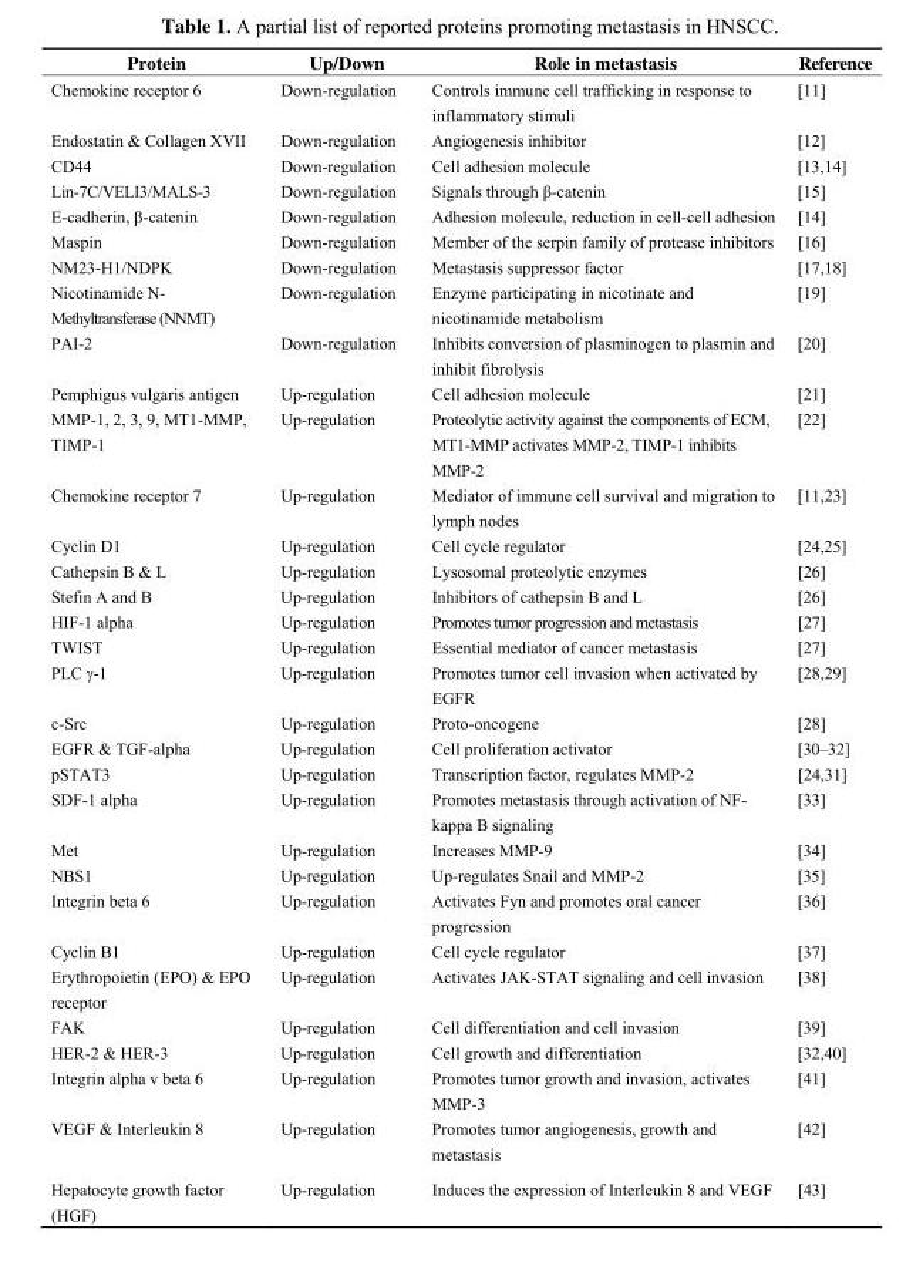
<table><thead><tr><td>Protein</td><td>Up/Down</td><td>Role in metastasis</td><td>Reference</td></tr></thead><tbody><tr><td>Chemokine receptor 6</td><td>Down-regulation</td><td>Controls immune cell trafficking in response to inflammatory stimuli</td><td>[11]</td></tr><tr><td>Endostatin &amp; Collagen XVII</td><td>Down-regulation</td><td>Angiogenesis inhibitor</td><td>[12]</td></tr><tr><td>CD44</td><td>Down-regulation</td><td>Cell adhesion molecule</td><td>[13,14]</td></tr><tr><td>Lin-7C/VELI3/MALS-3</td><td>Down-regulation</td><td>Signals through β-catenin</td><td>[15]</td></tr><tr><td>E-cadherin, β-catenin</td><td>Down-regulation</td><td>Adhesion molecule, reduction in cell-cell adhesion</td><td>[14]</td></tr><tr><td>Maspin</td><td>Down-regulation</td><td>Member of the serpin family of protease inhibitors</td><td>[16]</td></tr><tr><td>NM23-H1/NDPK</td><td>Down-regulation</td><td>Metastasis suppressor factor</td><td>[17,18]</td></tr><tr><td>Nicotinamide N- Methyltransferase (NNMT)</td><td>Down-regulation</td><td>Enzyme participating in nicotinate and nicotinamide metabolism</td><td>[19]</td></tr><tr><td>PAI-2</td><td>Down-regulation</td><td>Inhibits conversion of plasminogen to plasmin and inhibit fibrolysis</td><td>[20]</td></tr><tr><td>Pemphigus vulgaris antigen</td><td>Up-regulation</td><td>Cell adhesion molecule</td><td>[21]</td></tr><tr><td>MMP-1, 2, 3, 9, MT1-MMP, TIMP-1</td><td>Up-regulation</td><td>Proteolytic activity against the components of ECM, MT1-MMP activates MMP-2, TIMP-1 inhibits MMP-2</td><td>[22]</td></tr><tr><td>Chemokine receptor 7</td><td>Up-regulation</td><td>Mediator of immune cell survival and migration to lymph nodes</td><td>[11,23]</td></tr><tr><td>Cyclin D1</td><td>Up-regulation</td><td>Cell cycle regulator</td><td>[24,25]</td></tr><tr><td>Cathepsin B &amp; L</td><td>Up-regulation</td><td>Lysosomal proteolytic enzymes</td><td>[26]</td></tr><tr><td>Stefin A and B</td><td>Up-regulation</td><td>Inhibitors of cathepsin B and L</td><td>[26]</td></tr><tr><td>HIF-1 alpha</td><td>Up-regulation</td><td>Promotes tumor progression and metastasis</td><td>[27]</td></tr><tr><td>TWIST</td><td>Up-regulation</td><td>Essential mediator of cancer metastasis</td><td>[27]</td></tr><tr><td>PLC γ-1</td><td>Up-regulation</td><td>Promotes tumor cell invasion when activated by EGFR</td><td>[28,29]</td></tr><tr><td>c-Src</td><td>Up-regulation</td><td>Proto-oncogene</td><td>[28]</td></tr><tr><td>EGFR &amp; TGF-alpha</td><td>Up-regulation</td><td>Cell proliferation activator</td><td>[30–32]</td></tr><tr><td>pSTAT3</td><td>Up-regulation</td><td>Transcription factor, regulates MMP-2</td><td>[24,31]</td></tr><tr><td>SDF-1 alpha</td><td>Up-regulation</td><td>Promotes metastasis through activation of NF- kappa B signaling</td><td>[33]</td></tr><tr><td>Met</td><td>Up-regulation</td><td>Increases MMP-9</td><td>[34]</td></tr><tr><td>NBS1</td><td>Up-regulation</td><td>Up-regulates Snail and MMP-2</td><td>[35]</td></tr><tr><td>Integrin beta 6</td><td>Up-regulation</td><td>Activates Fyn and promotes oral cancer progression</td><td>[36]</td></tr><tr><td>Cyclin B1</td><td>Up-regulation</td><td>Cell cycle regulator</td><td>[37]</td></tr><tr><td>Erythropoietin (EPO) &amp; EPO receptor</td><td>Up-regulation</td><td>Activates JAK-STAT signaling and cell invasion</td><td>[38]</td></tr><tr><td>FAK</td><td>Up-regulation</td><td>Cell differentiation and cell invasion</td><td>[39]</td></tr><tr><td>HER-2 &amp; HER-3</td><td>Up-regulation</td><td>Cell growth and differentiation</td><td>[32,40]</td></tr><tr><td>Integrin alpha v beta 6</td><td>Up-regulation</td><td>Promotes tumor growth and invasion, activates MMP-3</td><td>[41]</td></tr><tr><td>VEGF &amp; Interleukin 8</td><td>Up-regulation</td><td>Promotes tumor angiogenesis, growth and metastasis</td><td>[42]</td></tr><tr><td>Hepatocyte growth factor (HGF)</td><td>Up-regulation</td><td>Induces the expression of Interleukin 8 and VEGF</td><td>[43]</td></tr></tbody></table>